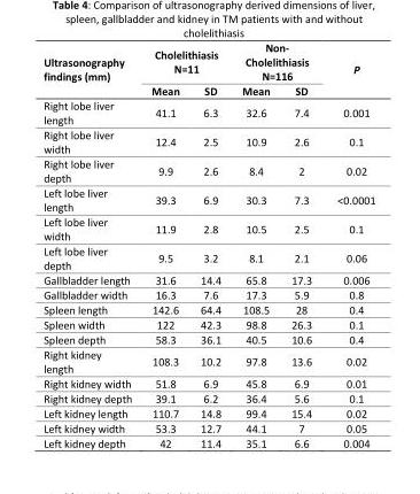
<table><thead><tr><td rowspan="2">Ultrasonography findings (mm)</td><td colspan="2">Cholelithiasis N=11</td><td colspan="2">Non- Cholelithiasis N=116</td><td rowspan="2">P</td></tr><tr><td>Mean</td><td>SD</td><td>Mean</td><td>SD</td></tr></thead><tbody><tr><td>Right lobe liver length</td><td>41.1</td><td>6.3</td><td>32.6</td><td>7.4</td><td>0.001</td></tr><tr><td>Right lobe liver width</td><td>12.4</td><td>2.5</td><td>10.9</td><td>2.6</td><td>0.1</td></tr><tr><td>Right lobe liver depth</td><td>9.9</td><td>2.6</td><td>8.4</td><td>2</td><td>0.02</td></tr><tr><td>Left lobe liver length</td><td>39.3</td><td>6.9</td><td>30.3</td><td>7.3</td><td>&lt;0.0001</td></tr><tr><td>Left lobe liver width</td><td>11.9</td><td>2.8</td><td>10.5</td><td>2.5</td><td>0.1</td></tr><tr><td>Left lobe liver depth</td><td>9.5</td><td>3.2</td><td>8.1</td><td>2.1</td><td>0.06</td></tr><tr><td>Gallbladder length</td><td>31.6</td><td>14.4</td><td>65.8</td><td>17.3</td><td>0.006</td></tr><tr><td>Gallbladder width</td><td>16.3</td><td>7.6</td><td>17.3</td><td>5.9</td><td>0.8</td></tr><tr><td>Spleen length</td><td>142.6</td><td>64.4</td><td>108.5</td><td>28</td><td>0.4</td></tr><tr><td>Spleen width</td><td>122</td><td>42.3</td><td>98.8</td><td>26.3</td><td>0.1</td></tr><tr><td>Spleen depth</td><td>58.3</td><td>36.1</td><td>40.5</td><td>10.6</td><td>0.4</td></tr><tr><td>Right kidney length</td><td>108.3</td><td>10.2</td><td>97.8</td><td>13.6</td><td>0.02</td></tr><tr><td>Right kidney width</td><td>51.8</td><td>6.9</td><td>45.8</td><td>6.9</td><td>0.01</td></tr><tr><td>Right kidney depth</td><td>39.1</td><td>6.2</td><td>36.4</td><td>5.6</td><td>0.1</td></tr><tr><td>Left kidney length</td><td>110.7</td><td>14.8</td><td>99.4</td><td>15.4</td><td>0.02</td></tr><tr><td>Left kidney width</td><td>53.3</td><td>12.7</td><td>44.1</td><td>7</td><td>0.05</td></tr><tr><td>Left kidney depth</td><td>42</td><td>11.4</td><td>35.1</td><td>6.6</td><td>0.004</td></tr></tbody></table>